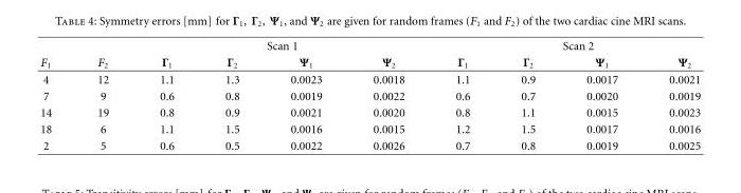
<table><thead><tr><td rowspan="2">F<sub>1</sub></td><td rowspan="2">F<sub>2</sub></td><td colspan="4">Scan 1</td><td colspan="4">Scan 2</td></tr><tr><td>Γ<sub>1</sub></td><td>Γ<sub>2</sub></td><td>Ψ<sub>1</sub></td><td>Ψ<sub>2</sub></td><td>Γ<sub>1</sub></td><td>Γ<sub>2</sub></td><td>Ψ<sub>1</sub></td><td>Ψ<sub>2</sub></td></tr></thead><tbody><tr><td>4</td><td>12</td><td>1.1</td><td>1.3</td><td>0.0023</td><td>0.0018</td><td>1.1</td><td>0.9</td><td>0.0017</td><td>0.0021</td></tr><tr><td>7</td><td>9</td><td>0.6</td><td>0.8</td><td>0.0019</td><td>0.0022</td><td>0.6</td><td>0.7</td><td>0.0020</td><td>0.0019</td></tr><tr><td>14</td><td>19</td><td>0.8</td><td>0.9</td><td>0.0021</td><td>0.0020</td><td>0.8</td><td>1.1</td><td>0.0015</td><td>0.0023</td></tr><tr><td>18</td><td>6</td><td>1.1</td><td>1.5</td><td>0.0016</td><td>0.0015</td><td>1.2</td><td>1.5</td><td>0.0017</td><td>0.0016</td></tr><tr><td>2</td><td>5</td><td>0.6</td><td>0.5</td><td>0.0022</td><td>0.0026</td><td>0.7</td><td>0.8</td><td>0.0019</td><td>0.0025</td></tr></tbody></table>